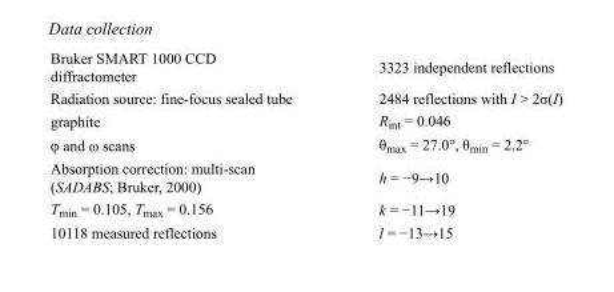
<table><tbody><tr><td>Bruker SMART 1000 CCD diffractometer</td><td>3323 independent reflections</td></tr><tr><td>Radiation source: fine-focus sealed tube</td><td>2484 reflections with I &gt; 2σ(I)</td></tr><tr><td>graphite</td><td>R<sub>int</sub> = 0.046</td></tr><tr><td>φ and ω scans</td><td>θ<sub>max</sub> = 27.0°, θ<sub>min</sub> = 2.2°</td></tr><tr><td>Absorption correction: multi-scan (SADABS; Bruker, 2000)</td><td>h = −9→10</td></tr><tr><td>T<sub>min</sub> = 0.105, T<sub>max</sub> = 0.156</td><td>k = −11→19</td></tr><tr><td>10118 measured reflections</td><td>l = −13→15</td></tr></tbody></table>